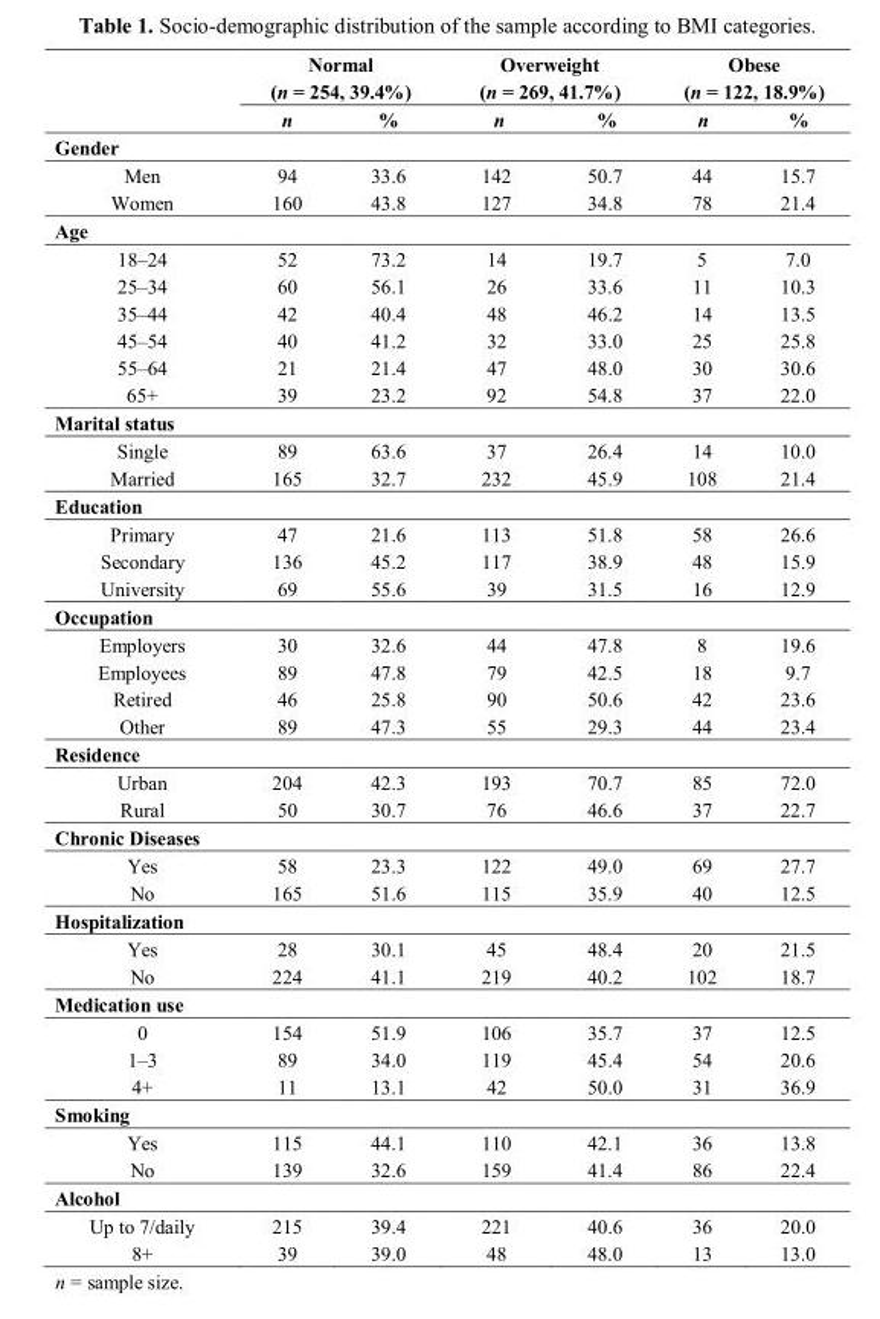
<table><thead><tr><td rowspan="2"></td><td colspan="2">Normal (n = 254, 39.4%)</td><td colspan="2">Overweight (n = 269, 41.7%)</td><td colspan="2">Obese (n = 122, 18.9%)</td></tr><tr><td>n</td><td>%</td><td>n</td><td>%</td><td>n</td><td>%</td></tr></thead><tbody><tr><td colspan="7">Gender</td></tr><tr><td>Men</td><td>94</td><td>33.6</td><td>142</td><td>50.7</td><td>44</td><td>15.7</td></tr><tr><td>Women</td><td>160</td><td>43.8</td><td>127</td><td>34.8</td><td>78</td><td>21.4</td></tr><tr><td colspan="7">Age</td></tr><tr><td>18–24</td><td>52</td><td>73.2</td><td>14</td><td>19.7</td><td>5</td><td>7.0</td></tr><tr><td>25–34</td><td>60</td><td>56.1</td><td>26</td><td>33.6</td><td>11</td><td>10.3</td></tr><tr><td>35–44</td><td>42</td><td>40.4</td><td>48</td><td>46.2</td><td>14</td><td>13.5</td></tr><tr><td>45–54</td><td>40</td><td>41.2</td><td>32</td><td>33.0</td><td>25</td><td>25.8</td></tr><tr><td>55–64</td><td>21</td><td>21.4</td><td>47</td><td>48.0</td><td>30</td><td>30.6</td></tr><tr><td>65+</td><td>39</td><td>23.2</td><td>92</td><td>54.8</td><td>37</td><td>22.0</td></tr><tr><td colspan="7">Marital status</td></tr><tr><td>Single</td><td>89</td><td>63.6</td><td>37</td><td>26.4</td><td>14</td><td>10.0</td></tr><tr><td>Married</td><td>165</td><td>32.7</td><td>232</td><td>45.9</td><td>108</td><td>21.4</td></tr><tr><td colspan="7">Education</td></tr><tr><td>Primary</td><td>47</td><td>21.6</td><td>113</td><td>51.8</td><td>58</td><td>26.6</td></tr><tr><td>Secondary</td><td>136</td><td>45.2</td><td>117</td><td>38.9</td><td>48</td><td>15.9</td></tr><tr><td>University</td><td>69</td><td>55.6</td><td>39</td><td>31.5</td><td>16</td><td>12.9</td></tr><tr><td colspan="7">Occupation</td></tr><tr><td>Employers</td><td>30</td><td>32.6</td><td>44</td><td>47.8</td><td>8</td><td>19.6</td></tr><tr><td>Employees</td><td>89</td><td>47.8</td><td>79</td><td>42.5</td><td>18</td><td>9.7</td></tr><tr><td>Retired</td><td>46</td><td>25.8</td><td>90</td><td>50.6</td><td>42</td><td>23.6</td></tr><tr><td>Other</td><td>89</td><td>47.3</td><td>55</td><td>29.3</td><td>44</td><td>23.4</td></tr><tr><td colspan="7">Residence</td></tr><tr><td>Urban</td><td>204</td><td>42.3</td><td>193</td><td>70.7</td><td>85</td><td>72.0</td></tr><tr><td>Rural</td><td>50</td><td>30.7</td><td>76</td><td>46.6</td><td>37</td><td>22.7</td></tr><tr><td colspan="7">Chronic Diseases</td></tr><tr><td>Yes</td><td>58</td><td>23.3</td><td>122</td><td>49.0</td><td>69</td><td>27.7</td></tr><tr><td>No</td><td>165</td><td>51.6</td><td>115</td><td>35.9</td><td>40</td><td>12.5</td></tr><tr><td colspan="7">Hospitalization</td></tr><tr><td>Yes</td><td>28</td><td>30.1</td><td>45</td><td>48.4</td><td>20</td><td>21.5</td></tr><tr><td>No</td><td>224</td><td>41.1</td><td>219</td><td>40.2</td><td>102</td><td>18.7</td></tr><tr><td colspan="7">Medication use</td></tr><tr><td>0</td><td>154</td><td>51.9</td><td>106</td><td>35.7</td><td>37</td><td>12.5</td></tr><tr><td>1–3</td><td>89</td><td>34.0</td><td>119</td><td>45.4</td><td>54</td><td>20.6</td></tr><tr><td>4+</td><td>11</td><td>13.1</td><td>42</td><td>50.0</td><td>31</td><td>36.9</td></tr><tr><td colspan="7">Smoking</td></tr><tr><td>Yes</td><td>115</td><td>44.1</td><td>110</td><td>42.1</td><td>36</td><td>13.8</td></tr><tr><td>No</td><td>139</td><td>32.6</td><td>159</td><td>41.4</td><td>86</td><td>22.4</td></tr><tr><td colspan="7">Alcohol</td></tr><tr><td>Up to 7/daily</td><td>215</td><td>39.4</td><td>221</td><td>40.6</td><td>36</td><td>20.0</td></tr><tr><td>8+</td><td>39</td><td>39.0</td><td>48</td><td>48.0</td><td>13</td><td>13.0</td></tr></tbody></table>